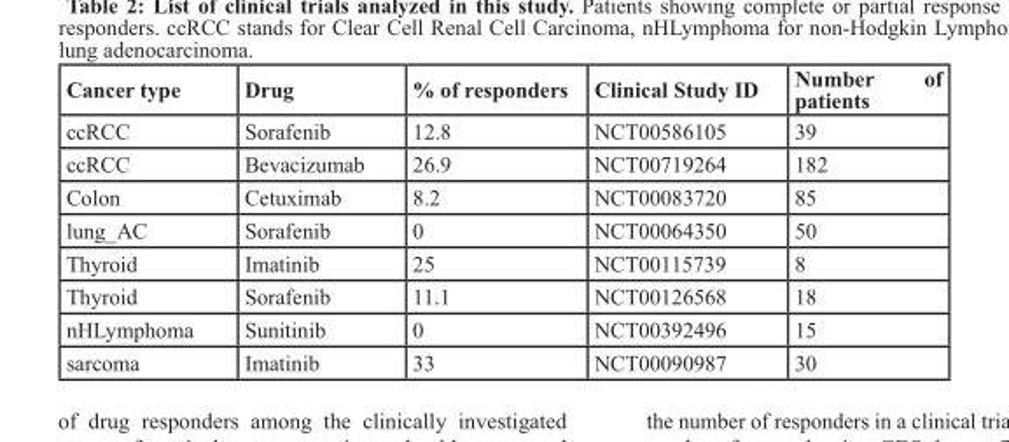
<table><thead><tr><td>Cancer type</td><td>Drug</td><td>% of responders</td><td>Clinical Study ID</td><td>Number of patients</td></tr></thead><tbody><tr><td>ccRCC</td><td>Sorafenib</td><td>12.8</td><td>NCT00586105</td><td>39</td></tr><tr><td>ccRCC</td><td>Bevacizumab</td><td>26.9</td><td>NCT00719264</td><td>182</td></tr><tr><td>Colon</td><td>Cetuximab</td><td>8.2</td><td>NCT00083720</td><td>85</td></tr><tr><td>lung_AC</td><td>Sorafenib</td><td>0</td><td>NCT00064350</td><td>50</td></tr><tr><td>Thyroid</td><td>Imatinib</td><td>25</td><td>NCT00115739</td><td>8</td></tr><tr><td>Thyroid</td><td>Sorafenib</td><td>11.1</td><td>NCT00126568</td><td>18</td></tr><tr><td>nHLymphoma</td><td>Sunitinib</td><td>0</td><td>NCT00392496</td><td>15</td></tr><tr><td>sarcoma</td><td>Imatinib</td><td>33</td><td>NCT00090987</td><td>30</td></tr></tbody></table>